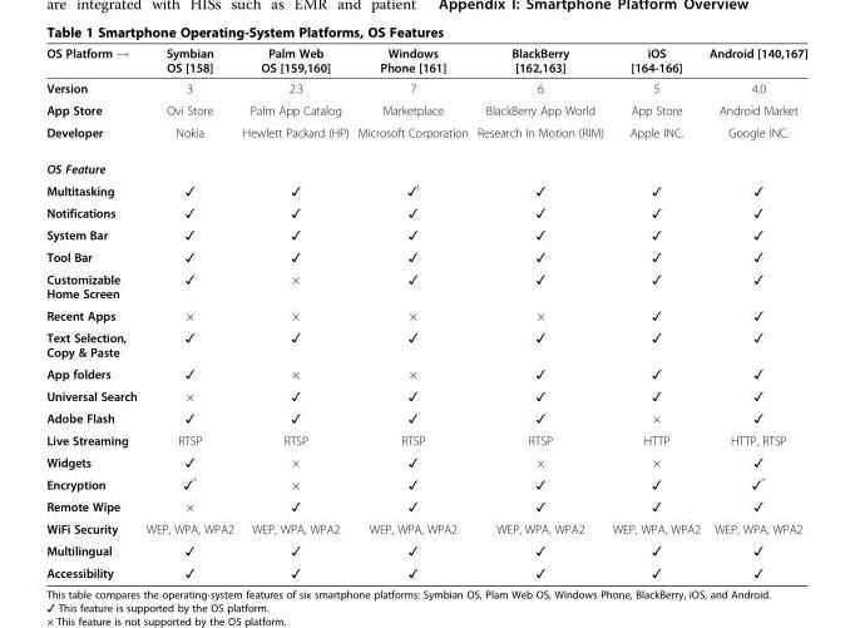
<table><thead><tr><td>OS Platform →</td><td>Symbian OS [158]</td><td>Palm Web OS [159,160]</td><td>Windows Phone [161]</td><td>BlackBerry [162,163]</td><td>iOS [164-166]</td><td>Android [140,167]</td></tr></thead><tbody><tr><td>Version</td><td>3</td><td>2.3</td><td>7</td><td>6</td><td>5</td><td>4.0</td></tr><tr><td>App Store</td><td>Ovi Store</td><td>Palm App Catalog</td><td>Marketplace</td><td>BlackBerry App World</td><td>App Store</td><td>Android Market</td></tr><tr><td>Developer</td><td>Nokia</td><td>Hewlett Packard (HP)</td><td>Microsoft Corporation</td><td>Research In Motion (RIM)</td><td>Apple INC.</td><td>Google INC.</td></tr><tr><td colspan="7">OS Feature</td></tr><tr><td>Multitasking</td><td>✓</td><td>✓</td><td>✓<sup>l</sup></td><td>✓</td><td>✓</td><td>✓</td></tr><tr><td>Notifications</td><td>✓</td><td>✓</td><td>✓</td><td>✓</td><td>✓</td><td>✓</td></tr><tr><td>System Bar</td><td>✓</td><td>✓</td><td>✓</td><td>✓</td><td>✓</td><td>✓</td></tr><tr><td>Tool Bar</td><td>✓</td><td>✓</td><td>✓</td><td>✓</td><td>✓</td><td>✓</td></tr><tr><td>Customizable Home Screen</td><td>✓</td><td>×</td><td>✓</td><td>✓</td><td>✓</td><td>✓</td></tr><tr><td>Recent Apps</td><td>×</td><td>×</td><td>×</td><td>×</td><td>✓</td><td>✓</td></tr><tr><td>Text Selection, Copy &amp; Paste</td><td>✓</td><td>✓</td><td>✓</td><td>✓</td><td>✓</td><td>✓</td></tr><tr><td>App folders</td><td>✓</td><td>×</td><td>×</td><td>✓</td><td>✓</td><td>✓</td></tr><tr><td>Universal Search</td><td>×</td><td>✓</td><td>✓</td><td>✓</td><td>✓</td><td>✓</td></tr><tr><td>Adobe Flash</td><td>✓</td><td>✓</td><td>✓</td><td>✓</td><td>×</td><td>✓</td></tr><tr><td>Live Streaming</td><td>RTSP</td><td>RTSP</td><td>RTSP</td><td>RTSP</td><td>HTTP</td><td>HTTP, RTSP</td></tr><tr><td>Widgets</td><td>✓</td><td>×</td><td>✓</td><td>×</td><td>×</td><td>✓</td></tr><tr><td>Encryption</td><td>✓*</td><td>×</td><td>✓</td><td>✓</td><td>✓</td><td>✓*</td></tr><tr><td>Remote Wipe</td><td>×</td><td>✓</td><td>✓</td><td>✓</td><td>✓</td><td>✓</td></tr><tr><td>WiFi Security</td><td>WEP, WPA, WPA2</td><td>WEP, WPA, WPA2</td><td>WEP, WPA, WPA2</td><td>WEP, WPA, WPA2</td><td>WEP, WPA, WPA2</td><td>WEP, WPA, WPA2</td></tr><tr><td>Multilingual</td><td>✓</td><td>✓</td><td>✓</td><td>✓</td><td>✓</td><td>✓</td></tr><tr><td>Accessibility</td><td>✓</td><td>✓</td><td>✓</td><td>✓</td><td>✓</td><td>✓</td></tr></tbody></table>